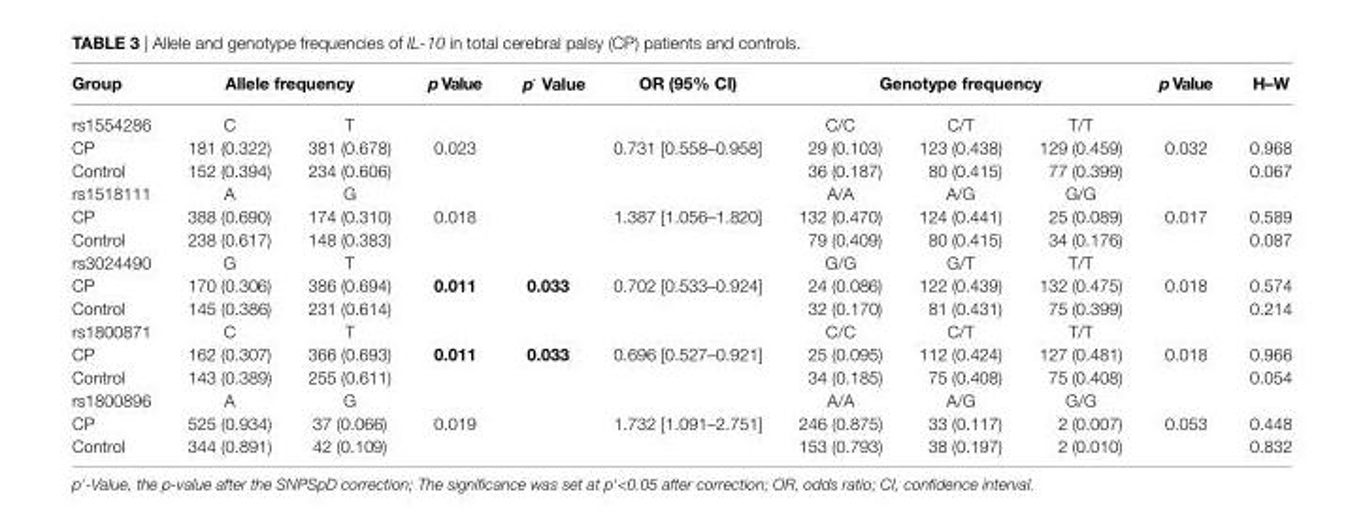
<table><thead><tr><td rowspan="2">group rs1554286</td><td colspan="2">allele frequency</td><td rowspan="2">p Value</td><td rowspan="2">p΄ Value</td><td rowspan="2">Or (95% ci)</td><td colspan="3">genotype frequency</td><td rowspan="2">p Value</td><td rowspan="2">h–W</td></tr><tr><td>C</td><td>T</td><td>C/C</td><td>C/T</td><td>T/T</td></tr></thead><tbody><tr><td>CP</td><td>181 (0.322)</td><td>381 (0.678)</td><td>0.023</td><td></td><td>0.731 [0.558–0.958]</td><td>29 (0.103)</td><td>123 (0.438)</td><td>129 (0.459)</td><td>0.032</td><td>0.968</td></tr><tr><td>Control</td><td>152 (0.394)</td><td>234 (0.606)</td><td></td><td></td><td></td><td>36 (0.187)</td><td>80 (0.415)</td><td>77 (0.399)</td><td></td><td>0.067</td></tr><tr><td>rs1518111</td><td>A</td><td>G</td><td></td><td></td><td></td><td>A/A</td><td>A/G</td><td>G/G</td><td></td><td></td></tr><tr><td>CP</td><td>388 (0.690)</td><td>174 (0.310)</td><td>0.018</td><td></td><td>1.387 [1.056–1.820]</td><td>132 (0.470)</td><td>124 (0.441)</td><td>25 (0.089)</td><td>0.017</td><td>0.589</td></tr><tr><td>Control</td><td>238 (0.617)</td><td>148 (0.383)</td><td></td><td></td><td></td><td>79 (0.409)</td><td>80 (0.415)</td><td>34 (0.176)</td><td></td><td>0.087</td></tr><tr><td>rs3024490</td><td>G</td><td>T</td><td></td><td></td><td></td><td>G/G</td><td>G/T</td><td>T/T</td><td></td><td></td></tr><tr><td>CP</td><td>170 (0.306)</td><td>386 (0.694)</td><td>0.011</td><td>0.033</td><td>0.702 [0.533–0.924]</td><td>24 (0.086)</td><td>122 (0.439)</td><td>132 (0.475)</td><td>0.018</td><td>0.574</td></tr><tr><td>Control</td><td>145 (0.386)</td><td>231 (0.614)</td><td></td><td></td><td></td><td>32 (0.170)</td><td>81 (0.431)</td><td>75 (0.399)</td><td></td><td>0.214</td></tr><tr><td>rs1800871</td><td>C</td><td>T</td><td></td><td></td><td></td><td>C/C</td><td>C/T</td><td>T/T</td><td></td><td></td></tr><tr><td>CP</td><td>162 (0.307)</td><td>366 (0.693)</td><td>0.011</td><td>0.033</td><td>0.696 [0.527–0.921]</td><td>25 (0.095)</td><td>112 (0.424)</td><td>127 (0.481)</td><td>0.018</td><td>0.966</td></tr><tr><td>Control</td><td>143 (0.389)</td><td>255 (0.611)</td><td></td><td></td><td></td><td>34 (0.185)</td><td>75 (0.408)</td><td>75 (0.408)</td><td></td><td>0.054</td></tr><tr><td>rs1800896</td><td>A</td><td>G</td><td></td><td></td><td></td><td>A/A</td><td>A/G</td><td>G/G</td><td></td><td></td></tr><tr><td>CP</td><td>525 (0.934)</td><td>37 (0.066)</td><td>0.019</td><td></td><td>1.732 [1.091–2.751]</td><td>246 (0.875)</td><td>33 (0.117)</td><td>2 (0.007)</td><td>0.053</td><td>0.448</td></tr><tr><td>Control</td><td>344 (0.891)</td><td>42 (0.109)</td><td></td><td></td><td></td><td>153 (0.793)</td><td>38 (0.197)</td><td>2 (0.010)</td><td></td><td>0.832</td></tr></tbody></table>